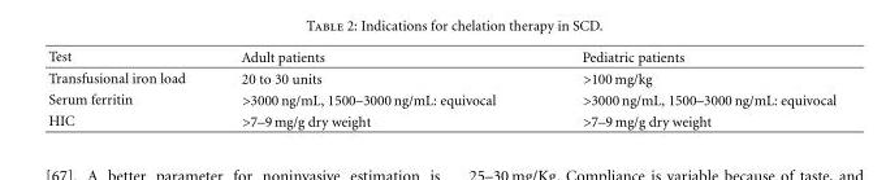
<table><thead><tr><td>Test</td><td>Adult patients</td><td>Pediatric patients</td></tr></thead><tbody><tr><td>Transfusional iron load</td><td>20 to 30 units</td><td>&gt;100 mg/kg</td></tr><tr><td>Serum ferritin</td><td>&gt;3000 ng/mL, 1500–3000 ng/mL: equivocal</td><td>&gt;3000 ng/mL, 1500–3000 ng/mL: equivocal</td></tr><tr><td>HIC</td><td>&gt;7–9 mg/g dry weight</td><td>&gt;7–9 mg/g dry weight</td></tr></tbody></table>